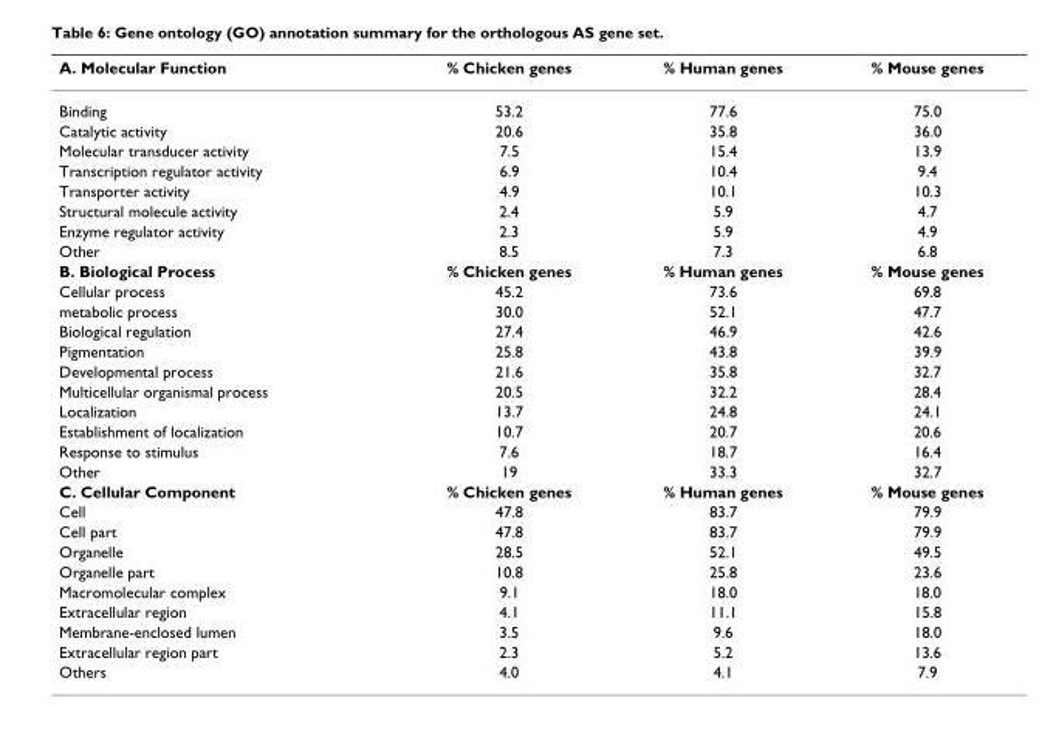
<table><thead><tr><td>A. Molecular Function</td><td>% Chicken genes</td><td>% Human genes</td><td>% Mouse genes</td></tr></thead><tbody><tr><td>Binding</td><td>53.2</td><td>77.6</td><td>75.0</td></tr><tr><td>Catalytic activity</td><td>20.6</td><td>35.8</td><td>36.0</td></tr><tr><td>Molecular transducer activity</td><td>7.5</td><td>15.4</td><td>13.9</td></tr><tr><td>Transcription regulator activity</td><td>6.9</td><td>10.4</td><td>9.4</td></tr><tr><td>Transporter activity</td><td>4.9</td><td>10.1</td><td>10.3</td></tr><tr><td>Structural molecule activity</td><td>2.4</td><td>5.9</td><td>4.7</td></tr><tr><td>Enzyme regulator activity</td><td>2.3</td><td>5.9</td><td>4.9</td></tr><tr><td>Other</td><td>8.5</td><td>7.3</td><td>6.8</td></tr><tr><td>B. Biological Process</td><td>% Chicken genes</td><td>% Human genes</td><td>% Mouse genes</td></tr><tr><td>Cellular process</td><td>45.2</td><td>73.6</td><td>69.8</td></tr><tr><td>metabolic process</td><td>30.0</td><td>52.1</td><td>47.7</td></tr><tr><td>Biological regulation</td><td>27.4</td><td>46.9</td><td>42.6</td></tr><tr><td>Pigmentation</td><td>25.8</td><td>43.8</td><td>39.9</td></tr><tr><td>Developmental process</td><td>21.6</td><td>35.8</td><td>32.7</td></tr><tr><td>Multicellular organismal process</td><td>20.5</td><td>32.2</td><td>28.4</td></tr><tr><td>Localization</td><td>13.7</td><td>24.8</td><td>24.1</td></tr><tr><td>Establishment of localization</td><td>10.7</td><td>20.7</td><td>20.6</td></tr><tr><td>Response to stimulus</td><td>7.6</td><td>18.7</td><td>16.4</td></tr><tr><td>Other</td><td>19</td><td>33.3</td><td>32.7</td></tr><tr><td>C. Cellular Component</td><td>% Chicken genes</td><td>% Human genes</td><td>% Mouse genes</td></tr><tr><td>Cell</td><td>47.8</td><td>83.7</td><td>79.9</td></tr><tr><td>Cell part</td><td>47.8</td><td>83.7</td><td>79.9</td></tr><tr><td>Organelle</td><td>28.5</td><td>52.1</td><td>49.5</td></tr><tr><td>Organelle part</td><td>10.8</td><td>25.8</td><td>23.6</td></tr><tr><td>Macromolecular complex</td><td>9.1</td><td>18.0</td><td>18.0</td></tr><tr><td>Extracellular region</td><td>4.1</td><td>11.1</td><td>15.8</td></tr><tr><td>Membrane-enclosed lumen</td><td>3.5</td><td>9.6</td><td>18.0</td></tr><tr><td>Extracellular region part</td><td>2.3</td><td>5.2</td><td>13.6</td></tr><tr><td>Others</td><td>4.0</td><td>4.1</td><td>7.9</td></tr></tbody></table>